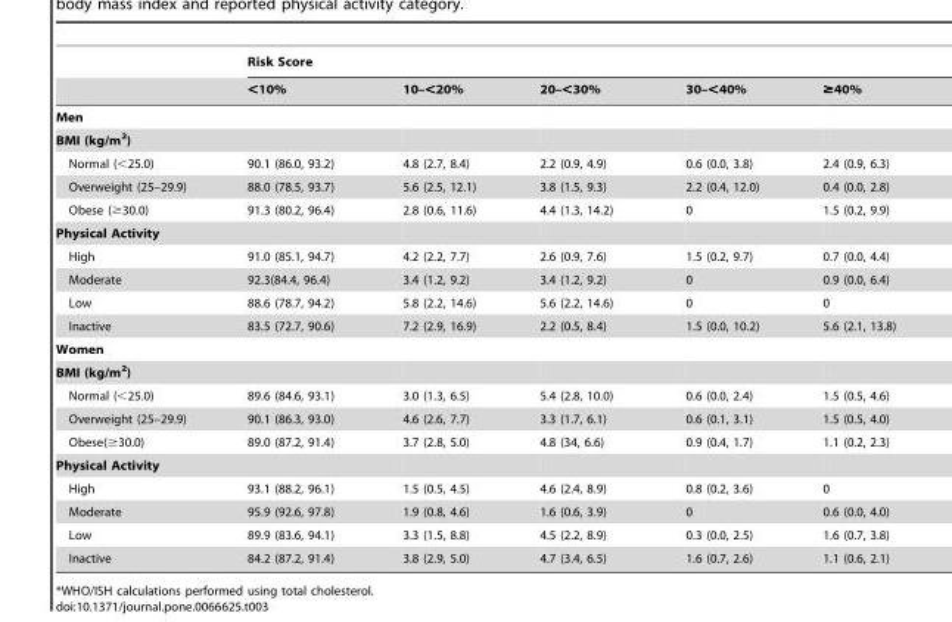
<table><thead><tr><td rowspan="2"></td><td colspan="5">Risk Score</td></tr><tr><td>&lt;10%</td><td>10–&lt;20%</td><td>20–&lt;30%</td><td>30–&lt;40%</td><td>≥40%</td></tr></thead><tbody><tr><td colspan="6">Men</td></tr><tr><td colspan="6">BMI (kg/m<sup>2</sup>)</td></tr><tr><td>Normal (&lt;25.0)</td><td>90.1 (86.0, 93.2)</td><td>4.8 (2.7, 8.4)</td><td>2.2 (0.9, 4.9)</td><td>0.6 (0.0, 3.8)</td><td>2.4 (0.9, 6.3)</td></tr><tr><td>Overweight (25–29.9)</td><td>88.0 (78.5, 93.7)</td><td>5.6 (2.5, 12.1)</td><td>3.8 (1.5, 9.3)</td><td>2.2 (0.4, 12.0)</td><td>0.4 (0.0, 2.8)</td></tr><tr><td>Obese (≥30.0)</td><td>91.3 (80.2, 96.4)</td><td>2.8 (0.6, 11.6)</td><td>4.4 (1.3, 14.2)</td><td>0</td><td>1.5 (0.2, 9.9)</td></tr><tr><td colspan="6">Physical Activity</td></tr><tr><td>High</td><td>91.0 (85.1, 94.7)</td><td>4.2 (2.2, 7.7)</td><td>2.6 (0.9, 7.6)</td><td>1.5 (0.2, 9.7)</td><td>0.7 (0.0, 4.4)</td></tr><tr><td>Moderate</td><td>92.3(84.4, 96.4)</td><td>3.4 (1.2, 9.2)</td><td>3.4 (1.2, 9.2)</td><td>0</td><td>0.9 (0.0, 6.4)</td></tr><tr><td>Low</td><td>88.6 (78.7, 94.2)</td><td>5.8 (2.2, 14.6)</td><td>5.6 (2.2, 14.6)</td><td>0</td><td>0</td></tr><tr><td>Inactive</td><td>83.5 (72.7, 90.6)</td><td>7.2 (2.9, 16.9)</td><td>2.2 (0.5, 8.4)</td><td>1.5 (0.0, 10.2)</td><td>5.6 (2.1, 13.8)</td></tr><tr><td colspan="6">Women</td></tr><tr><td colspan="6">BMI (kg/m<sup>2</sup>)</td></tr><tr><td>Normal (&lt;25.0)</td><td>89.6 (84.6, 93.1)</td><td>3.0 (1.3, 6.5)</td><td>5.4 (2.8, 10.0)</td><td>0.6 (0.0, 2.4)</td><td>1.5 (0.5, 4.6)</td></tr><tr><td>Overweight (25–29.9)</td><td>90.1 (86.3, 93.0)</td><td>4.6 (2.6, 7.7)</td><td>3.3 (1.7, 6.1)</td><td>0.6 (0.1, 3.1)</td><td>1.5 (0.5, 4.0)</td></tr><tr><td>Obese(≥30.0)</td><td>89.0 (87.2, 91.4)</td><td>3.7 (2.8, 5.0)</td><td>4.8 (34, 6.6)</td><td>0.9 (0.4, 1.7)</td><td>1.1 (0.2, 2.3)</td></tr><tr><td colspan="6">Physical Activity</td></tr><tr><td>High</td><td>93.1 (88.2, 96.1)</td><td>1.5 (0.5, 4.5)</td><td>4.6 (2.4, 8.9)</td><td>0.8 (0.2, 3.6)</td><td>0</td></tr><tr><td>Moderate</td><td>95.9 (92.6, 97.8)</td><td>1.9 (0.8, 4.6)</td><td>1.6 (0.6, 3.9)</td><td>0</td><td>0.6 (0.0, 4.0)</td></tr><tr><td>Low</td><td>89.9 (83.6, 94.1)</td><td>3.3 (1.5, 8.8)</td><td>4.5 (2.2, 8.9)</td><td>0.3 (0.0, 2.5)</td><td>1.6 (0.7, 3.8)</td></tr><tr><td>Inactive</td><td>84.2 (87.2, 91.4)</td><td>3.8 (2.9, 5.0)</td><td>4.7 (3.4, 6.5)</td><td>1.6 (0.7, 2.6)</td><td>1.1 (0.6, 2.1)</td></tr></tbody></table>